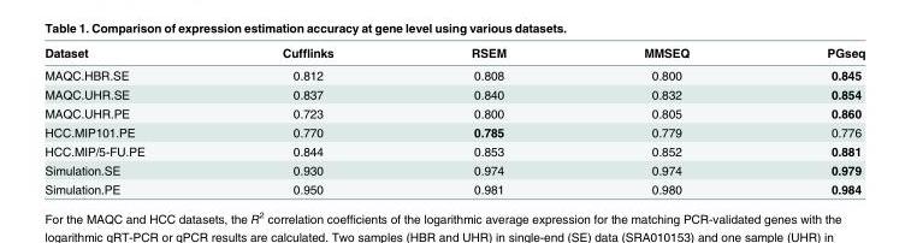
<table><thead><tr><td>Dataset</td><td>Cufflinks</td><td>RSEM</td><td>MMSEQ</td><td>PGseq</td></tr></thead><tbody><tr><td>MAQC.HBR.SE</td><td>0.812</td><td>0.808</td><td>0.800</td><td>0.845</td></tr><tr><td>MAQC.UHR.SE</td><td>0.837</td><td>0.840</td><td>0.832</td><td>0.854</td></tr><tr><td>MAQC.UHR.PE</td><td>0.723</td><td>0.800</td><td>0.805</td><td>0.860</td></tr><tr><td>HCC.MIP101.PE</td><td>0.770</td><td>0.785</td><td>0.779</td><td>0.776</td></tr><tr><td>HCC.MIP/5-FU.PE</td><td>0.844</td><td>0.853</td><td>0.852</td><td>0.881</td></tr><tr><td>Simulation.SE</td><td>0.930</td><td>0.974</td><td>0.974</td><td>0.979</td></tr><tr><td>Simulation.PE</td><td>0.950</td><td>0.981</td><td>0.980</td><td>0.984</td></tr></tbody></table>